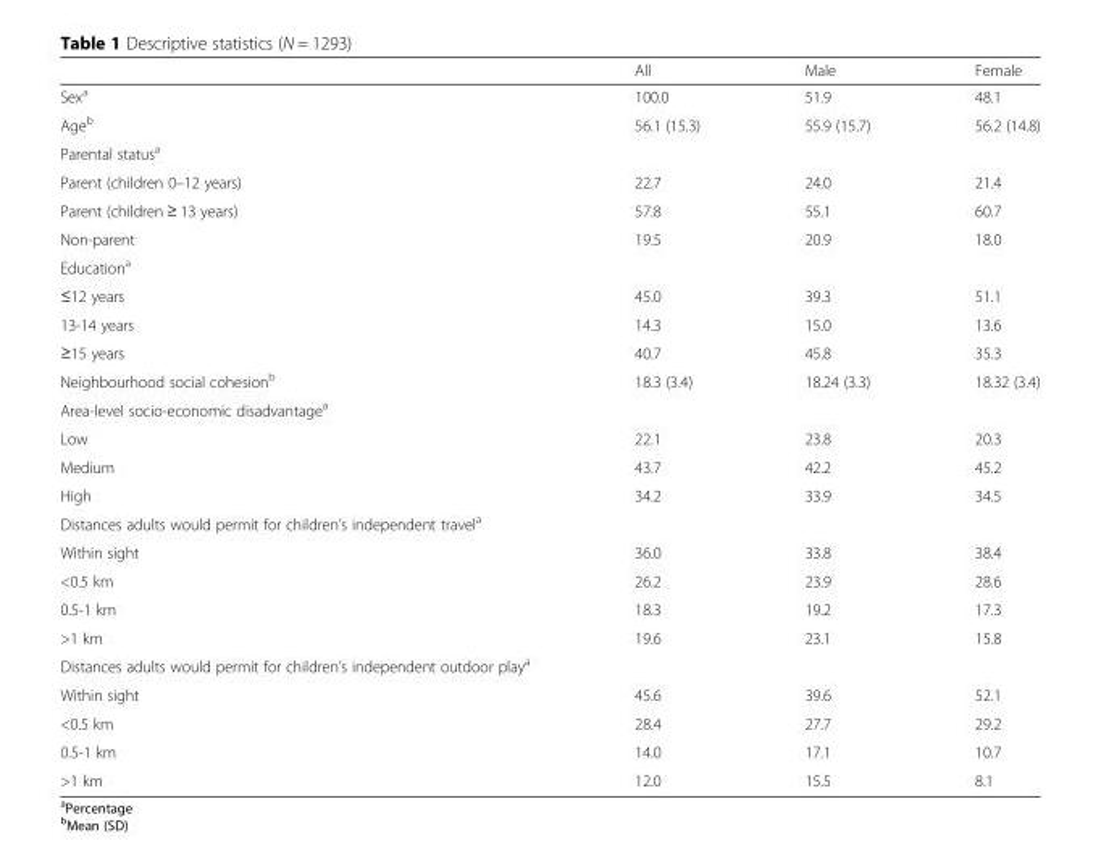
<table><thead><tr><td></td><td>All</td><td>Male</td><td>Female</td></tr></thead><tbody><tr><td>Sex<sup>a</sup></td><td>100.0</td><td>51.9</td><td>48.1</td></tr><tr><td>Age<sup>b</sup></td><td>56.1 (15.3)</td><td>55.9 (15.7)</td><td>56.2 (14.8)</td></tr><tr><td colspan="4">Parental status<sup>a</sup></td></tr><tr><td>Parent (children 0–12 years)</td><td>22.7</td><td>24.0</td><td>21.4</td></tr><tr><td>Parent (children ≥ 13 years)</td><td>57.8</td><td>55.1</td><td>60.7</td></tr><tr><td>Non-parent</td><td>19.5</td><td>20.9</td><td>18.0</td></tr><tr><td colspan="4">Education<sup>a</sup></td></tr><tr><td>≤12 years</td><td>45.0</td><td>39.3</td><td>51.1</td></tr><tr><td>13-14 years</td><td>14.3</td><td>15.0</td><td>13.6</td></tr><tr><td>≥15 years</td><td>40.7</td><td>45.8</td><td>35.3</td></tr><tr><td>Neighbourhood social cohesion<sup>b</sup></td><td>18.3 (3.4)</td><td>18.24 (3.3)</td><td>18.32 (3.4)</td></tr><tr><td colspan="4">Area-level socio-economic disadvantage<sup>a</sup></td></tr><tr><td>Low</td><td>22.1</td><td>23.8</td><td>20.3</td></tr><tr><td>Medium</td><td>43.7</td><td>42.2</td><td>45.2</td></tr><tr><td>High</td><td>34.2</td><td>33.9</td><td>34.5</td></tr><tr><td colspan="4">Distances adults would permit for children’s independent travel<sup>a</sup></td></tr><tr><td>Within sight</td><td>36.0</td><td>33.8</td><td>38.4</td></tr><tr><td>&lt;0.5 km</td><td>26.2</td><td>23.9</td><td>28.6</td></tr><tr><td>0.5-1 km</td><td>18.3</td><td>19.2</td><td>17.3</td></tr><tr><td>&gt;1 km</td><td>19.6</td><td>23.1</td><td>15.8</td></tr><tr><td colspan="4">Distances adults would permit for children’s independent outdoor play<sup>a</sup></td></tr><tr><td>Within sight</td><td>45.6</td><td>39.6</td><td>52.1</td></tr><tr><td>&lt;0.5 km</td><td>28.4</td><td>27.7</td><td>29.2</td></tr><tr><td>0.5-1 km</td><td>14.0</td><td>17.1</td><td>10.7</td></tr><tr><td>&gt;1 km</td><td>12.0</td><td>15.5</td><td>8.1</td></tr></tbody></table>